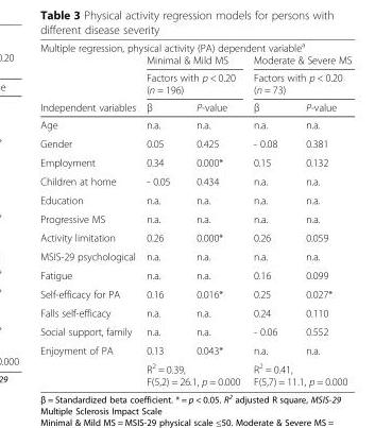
<table><thead><tr><td colspan="5">Multiple regression, physical activity (PA) dependent variable<sup>a</sup></td></tr><tr><td rowspan="3">Independent variables</td><td rowspan="2" colspan="2">Minimal &amp; Mild MS Factors with p &lt; 0.20 (n = 196)</td><td rowspan="2" colspan="2">Moderate &amp; Severe MS Factors with p &lt; 0.20 (n = 73)</td></tr><tr></tr><tr><td>β</td><td>P-value</td><td>β</td><td>P-value</td></tr></thead><tbody><tr><td>Age</td><td>n.a.</td><td>n.a.</td><td>n.a.</td><td>n.a.</td></tr><tr><td>Gender</td><td>0.05</td><td>0.425</td><td>- 0.08</td><td>0.381</td></tr><tr><td>Employment</td><td>0.34</td><td>0.000*</td><td>0.15</td><td>0.132</td></tr><tr><td>Children at home</td><td>- 0.05</td><td>0.434</td><td>n.a.</td><td>n.a.</td></tr><tr><td>Education</td><td>n.a.</td><td>n.a.</td><td>n.a.</td><td>n.a.</td></tr><tr><td>Progressive MS</td><td>n.a.</td><td>n.a.</td><td>n.a.</td><td>n.a.</td></tr><tr><td>Activity limitation</td><td>0.26</td><td>0.000*</td><td>0.26</td><td>0.059</td></tr><tr><td>MSIS-29 psychological</td><td>n.a.</td><td>n.a.</td><td>n.a.</td><td>n.a.</td></tr><tr><td>Fatigue</td><td>n.a.</td><td>n.a.</td><td>0.16</td><td>0.099</td></tr><tr><td>Self-efficacy for PA</td><td>0.16</td><td>0.016*</td><td>0.25</td><td>0.027*</td></tr><tr><td>Falls self-efficacy</td><td>n.a.</td><td>n.a.</td><td>0.24</td><td>0.110</td></tr><tr><td>Social support, family</td><td>n.a.</td><td>n.a.</td><td>- 0.06</td><td>0.552</td></tr><tr><td rowspan="2">Enjoyment of PA</td><td>0.13</td><td>0.043*</td><td>n.a.</td><td>n.a.</td></tr><tr><td colspan="2">R<sup>2</sup> = 0.39, F(5,2) = 26.1, p = 0.000</td><td colspan="2">R<sup>2</sup> = 0.41, F(5,7) = 11.1, p = 0.000</td></tr></tbody></table>